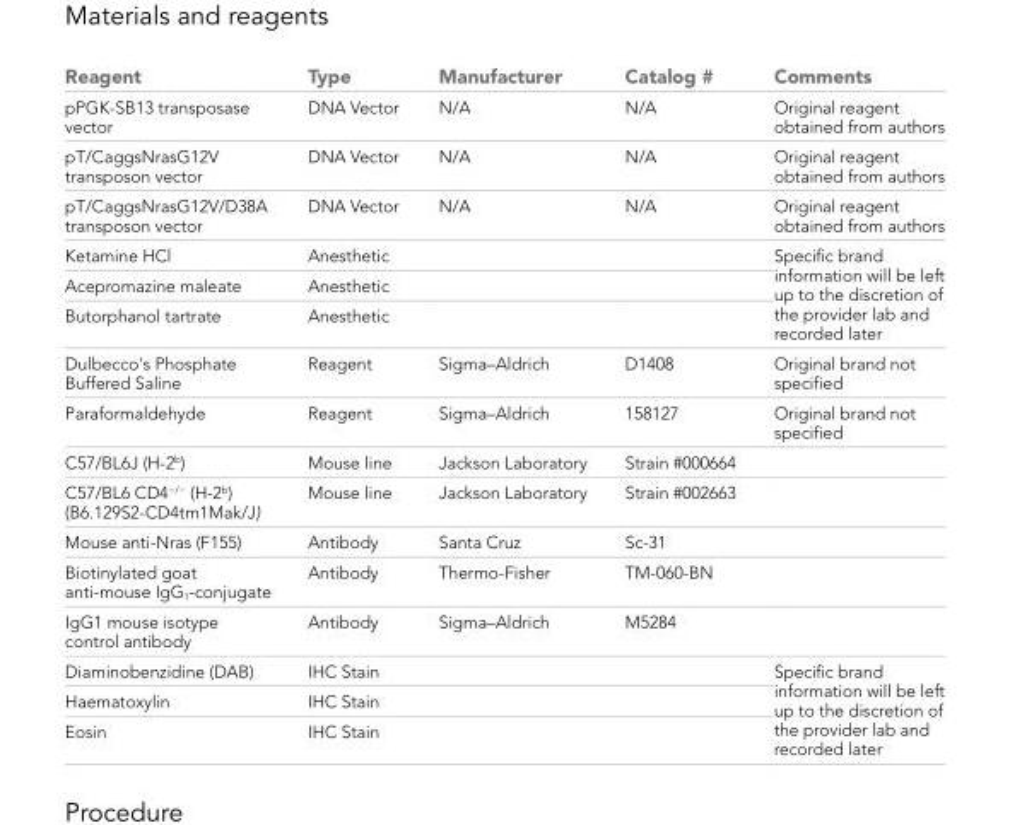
<table><thead><tr><td>Reagent</td><td>Type</td><td>Manufacturer</td><td>Catalog #</td><td>Comments</td></tr></thead><tbody><tr><td>pPGK-SB13 transposase vector</td><td>DNA Vector</td><td>N/A</td><td>N/A</td><td>Original reagent obtained from authors</td></tr><tr><td>pT/CaggsNrasG12V transposon vector</td><td>DNA Vector</td><td>N/A</td><td>N/A</td><td>Original reagent obtained from authors</td></tr><tr><td>pT/CaggsNrasG12V/D38A transposon vector</td><td>DNA Vector</td><td>N/A</td><td>N/A</td><td>Original reagent obtained from authors</td></tr><tr><td>Ketamine HCl</td><td>Anesthetic</td><td></td><td></td><td rowspan="3">Specific brand information will be left up to the discretion of the provider lab and recorded later</td></tr><tr><td>Acepromazine maleate</td><td>Anesthetic</td><td></td><td></td></tr><tr><td>Butorphanol tartrate</td><td>Anesthetic</td><td></td><td></td></tr><tr><td>Dulbecco&#x27;s Phosphate Buffered Saline</td><td>Reagent</td><td>Sigma–Aldrich</td><td>D1408</td><td>Original brand not specified</td></tr><tr><td>Paraformaldehyde</td><td>Reagent</td><td>Sigma–Aldrich</td><td>158127</td><td>Original brand not specified</td></tr><tr><td>C57/BL6J (H-2<sup>b</sup>)</td><td>Mouse line</td><td>Jackson Laboratory</td><td>Strain #000664</td><td></td></tr><tr><td>C57/BL6 CD4<sup>−/−</sup> (H-2<sup>b</sup>) (B6.129S2-CD4tm1Mak/J)</td><td>Mouse line</td><td>Jackson Laboratory</td><td>Strain #002663</td><td></td></tr><tr><td>Mouse anti-Nras (F155)</td><td>Antibody</td><td>Santa Cruz</td><td>Sc-31</td><td></td></tr><tr><td>Biotinylated goat anti-mouse IgG<sub>1</sub>-conjugate</td><td>Antibody</td><td>Thermo-Fisher</td><td>TM-060-BN</td><td></td></tr><tr><td>IgG1 mouse isotype control antibody</td><td>Antibody</td><td>Sigma–Aldrich</td><td>M5284</td><td></td></tr><tr><td>Diaminobenzidine (DAB)</td><td>IHC Stain</td><td></td><td></td><td rowspan="3">Specific brand information will be left up to the discretion of the provider lab and recorded later</td></tr><tr><td>Haematoxylin</td><td>IHC Stain</td><td></td><td></td></tr><tr><td>Eosin</td><td>IHC Stain</td><td></td><td></td></tr></tbody></table>